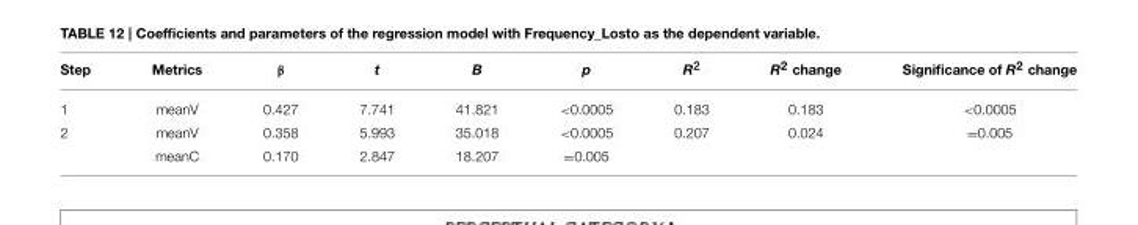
<table><thead><tr><td>Step</td><td>Metrics</td><td>β</td><td>t</td><td>B</td><td>p</td><td>R<sup>2</sup></td><td>R<sup>2</sup> change</td><td>Significance of R<sup>2</sup> change</td></tr></thead><tbody><tr><td>1</td><td>meanV</td><td>0.427</td><td>7.741</td><td>41.821</td><td>&lt;0.0005</td><td>0.183</td><td>0.183</td><td>&lt;0.0005</td></tr><tr><td rowspan="2">2</td><td>meanV</td><td>0.358</td><td>5.993</td><td>35.018</td><td>&lt;0.0005</td><td>0.207</td><td>0.024</td><td>=0.005</td></tr><tr><td>meanC</td><td>0.170</td><td>2.847</td><td>18.207</td><td>=0.005</td><td></td><td></td><td></td></tr></tbody></table>